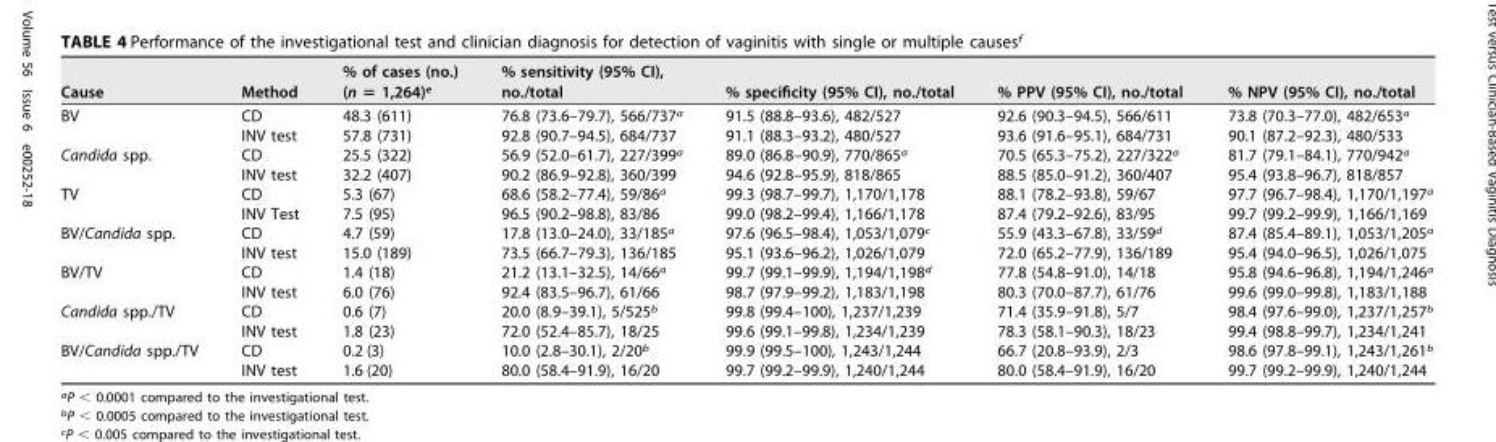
<table><thead><tr><td>Cause</td><td>Method</td><td>% of cases (no.) (n = 1,264)<sup>e</sup></td><td>% sensitivity (95% CI), no./total</td><td>% specificity (95% CI), no./total</td><td>% PPV (95% CI), no./total</td><td>% NPV (95% CI), no./total</td></tr></thead><tbody><tr><td rowspan="2">BV</td><td>CD</td><td>48.3 (611)</td><td>76.8 (73.6–79.7), 566/737<sup>a</sup></td><td>91.5 (88.8–93.6), 482/527</td><td>92.6 (90.3–94.5), 566/611</td><td>73.8 (70.3–77.0), 482/653<sup>a</sup></td></tr><tr><td>INV test</td><td>57.8 (731)</td><td>92.8 (90.7–94.5), 684/737</td><td>91.1 (88.3–93.2), 480/527</td><td>93.6 (91.6–95.1), 684/731</td><td>90.1 (87.2–92.3), 480/533</td></tr><tr><td rowspan="2">Candida spp.</td><td>CD</td><td>25.5 (322)</td><td>56.9 (52.0–61.7), 227/399<sup>a</sup></td><td>89.0 (86.8–90.9), 770/865<sup>a</sup></td><td>70.5 (65.3–75.2), 227/322<sup>a</sup></td><td>81.7 (79.1–84.1), 770/942<sup>a</sup></td></tr><tr><td>INV test</td><td>32.2 (407)</td><td>90.2 (86.9–92.8), 360/399</td><td>94.6 (92.8–95.9), 818/865</td><td>88.5 (85.0–91.2), 360/407</td><td>95.4 (93.8–96.7), 818/857</td></tr><tr><td rowspan="2">TV</td><td>CD</td><td>5.3 (67)</td><td>68.6 (58.2–77.4), 59/86<sup>a</sup></td><td>99.3 (98.7–99.7), 1,170/1,178</td><td>88.1 (78.2–93.8), 59/67</td><td>97.7 (96.7–98.4), 1,170/1,197<sup>a</sup></td></tr><tr><td>INV Test</td><td>7.5 (95)</td><td>96.5 (90.2–98.8), 83/86</td><td>99.0 (98.2–99.4), 1,166/1,178</td><td>87.4 (79.2–92.6), 83/95</td><td>99.7 (99.2–99.9), 1,166/1,169</td></tr><tr><td rowspan="2">BV/Candida spp.</td><td>CD</td><td>4.7 (59)</td><td>17.8 (13.0–24.0), 33/185<sup>a</sup></td><td>97.6 (96.5–98.4), 1,053/1,079<sup>c</sup></td><td>55.9 (43.3–67.8), 33/59<sup>d</sup></td><td>87.4 (85.4–89.1), 1,053/1,205<sup>a</sup></td></tr><tr><td>INV test</td><td>15.0 (189)</td><td>73.5 (66.7–79.3), 136/185</td><td>95.1 (93.6–96.2), 1,026/1,079</td><td>72.0 (65.2–77.9), 136/189</td><td>95.4 (94.0–96.5), 1,026/1,075</td></tr><tr><td rowspan="2">BV/TV</td><td>CD</td><td>1.4 (18)</td><td>21.2 (13.1–32.5), 14/66<sup>a</sup></td><td>99.7 (99.1–99.9), 1,194/1,198<sup>d</sup></td><td>77.8 (54.8–91.0), 14/18</td><td>95.8 (94.6–96.8), 1,194/1,246<sup>a</sup></td></tr><tr><td>INV test</td><td>6.0 (76)</td><td>92.4 (83.5–96.7), 61/66</td><td>98.7 (97.9–99.2), 1,183/1,198</td><td>80.3 (70.0–87.7), 61/76</td><td>99.6 (99.0–99.8), 1,183/1,188</td></tr><tr><td rowspan="2">Candida spp./TV</td><td>CD</td><td>0.6 (7)</td><td>20.0 (8.9–39.1), 5/525<sup>b</sup></td><td>99.8 (99.4–100), 1,237/1,239</td><td>71.4 (35.9–91.8), 5/7</td><td>98.4 (97.6–99.0), 1,237/1,257<sup>b</sup></td></tr><tr><td>INV test</td><td>1.8 (23)</td><td>72.0 (52.4–85.7), 18/25</td><td>99.6 (99.1–99.8), 1,234/1,239</td><td>78.3 (58.1–90.3), 18/23</td><td>99.4 (98.8–99.7), 1,234/1,241</td></tr><tr><td rowspan="2">BV/Candida spp./TV</td><td>CD</td><td>0.2 (3)</td><td>10.0 (2.8–30.1), 2/20<sup>b</sup></td><td>99.9 (99.5–100), 1,243/1,244</td><td>66.7 (20.8–93.9), 2/3</td><td>98.6 (97.8–99.1), 1,243/1,261<sup>b</sup></td></tr><tr><td>INV test</td><td>1.6 (20)</td><td>80.0 (58.4–91.9), 16/20</td><td>99.7 (99.2–99.9), 1,240/1,244</td><td>80.0 (58.4–91.9), 16/20</td><td>99.7 (99.2–99.9), 1,240/1,244</td></tr></tbody></table>